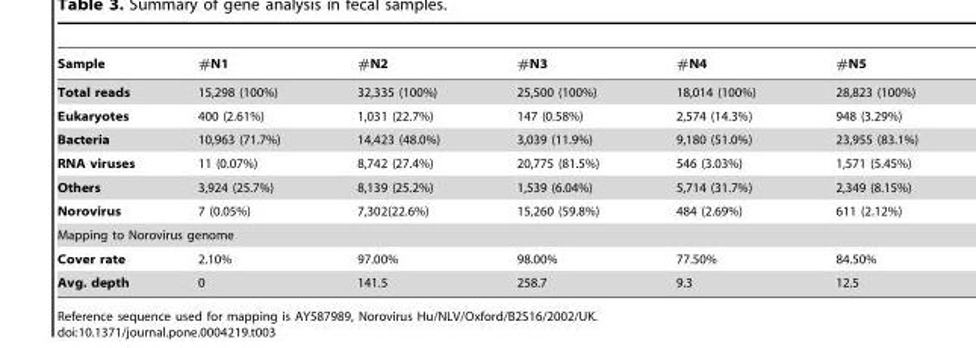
<table><thead><tr><td>Sample</td><td>#N1</td><td>#N2</td><td>#N3</td><td>#N4</td><td>#N5</td></tr></thead><tbody><tr><td>Total reads</td><td>15,298 (100%)</td><td>32,335 (100%)</td><td>25,500 (100%)</td><td>18,014 (100%)</td><td>28,823 (100%)</td></tr><tr><td>Eukaryotes</td><td>400 (2.61%)</td><td>1,031 (22.7%)</td><td>147 (0.58%)</td><td>2,574 (14.3%)</td><td>948 (3.29%)</td></tr><tr><td>Bacteria</td><td>10,963 (71.7%)</td><td>14,423 (48.0%)</td><td>3,039 (11.9%)</td><td>9,180 (51.0%)</td><td>23,955 (83.1%)</td></tr><tr><td>RNA viruses</td><td>11 (0.07%)</td><td>8,742 (27.4%)</td><td>20,775 (81.5%)</td><td>546 (3.03%)</td><td>1,571 (5.45%)</td></tr><tr><td>Others</td><td>3,924 (25.7%)</td><td>8,139 (25.2%)</td><td>1,539 (6.04%)</td><td>5,714 (31.7%)</td><td>2,349 (8.15%)</td></tr><tr><td>Norovirus</td><td>7 (0.05%)</td><td>7,302(22.6%)</td><td>15,260 (59.8%)</td><td>484 (2.69%)</td><td>611 (2.12%)</td></tr><tr><td colspan="6">Mapping to Norovirus genome</td></tr><tr><td>Cover rate</td><td>2.10%</td><td>97.00%</td><td>98.00%</td><td>77.50%</td><td>84.50%</td></tr><tr><td>Avg. depth</td><td>0</td><td>141.5</td><td>258.7</td><td>9.3</td><td>12.5</td></tr></tbody></table>